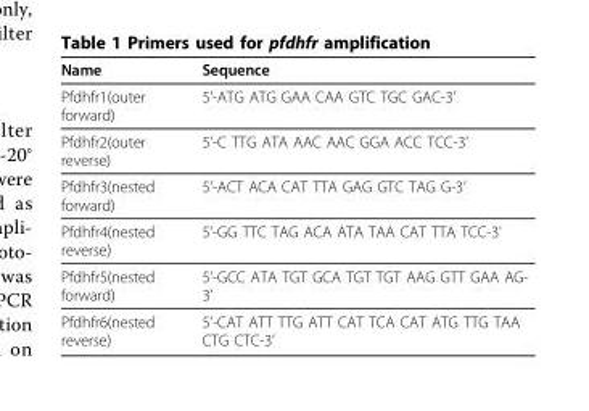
<table><thead><tr><td>Name</td><td>Sequence</td></tr></thead><tbody><tr><td>Pfdhfr1(outer forward)</td><td>5’-ATG ATG GAA CAA GTC TGC GAC-3’</td></tr><tr><td>Pfdhfr2(outer reverse)</td><td>5’-C TTG ATA AAC AAC GGA ACC TCC-3’</td></tr><tr><td>Pfdhfr3(nested forward)</td><td>5’-ACT ACA CAT TTA GAG GTC TAG G-3’</td></tr><tr><td>Pfdhfr4(nested reverse)</td><td>5’-GG TTC TAG ACA ATA TAA CAT TTA TCC-3’</td></tr><tr><td>Pfdhfr5(nested forward)</td><td>5’-GCC ATA TGT GCA TGT TGT AAG GTT GAA AG- 3’</td></tr><tr><td>Pfdhfr6(nested reverse)</td><td>5’-CAT ATT TTG ATT CAT TCA CAT ATG TTG TAA CTG CTC-3’</td></tr></tbody></table>